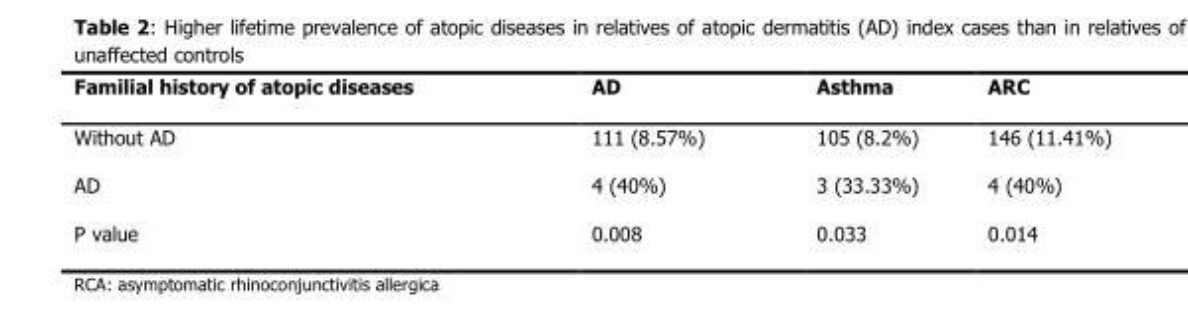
<table><thead><tr><td>Familial history of atopic diseases</td><td>AD</td><td>Asthma</td><td>ARC</td></tr></thead><tbody><tr><td>Without AD</td><td>111 (8.57%)</td><td>105 (8.2%)</td><td>146 (11.41%)</td></tr><tr><td>AD</td><td>4 (40%)</td><td>3 (33.33%)</td><td>4 (40%)</td></tr><tr><td>P value</td><td>0.008</td><td>0.033</td><td>0.014</td></tr></tbody></table>